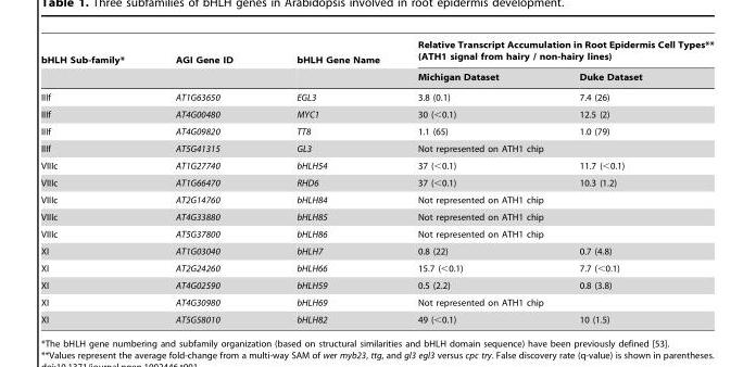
<table><thead><tr><td rowspan="2">bHLH Sub-family*</td><td rowspan="2">AGI Gene ID</td><td rowspan="2">bHLH Gene Name</td><td colspan="2">Relative Transcript Accumulation in Root Epidermis Cell Types** (ATH1 signal from hairy / non-hairy lines)</td></tr><tr><td>Michigan Dataset</td><td>Duke Dataset</td></tr></thead><tbody><tr><td>IIIf</td><td>AT1G63650</td><td>EGL3</td><td>3.8 (0.1)</td><td>7.4 (26)</td></tr><tr><td>IIIf</td><td>AT4G00480</td><td>MYC1</td><td>30 (&lt;0.1)</td><td>12.5 (2)</td></tr><tr><td>IIIf</td><td>AT4G09820</td><td>TT8</td><td>1.1 (65)</td><td>1.0 (79)</td></tr><tr><td>IIIf</td><td>AT5G41315</td><td>GL3</td><td colspan="2">Not represented on ATH1 chip</td></tr><tr><td>VIIIc</td><td>AT1G27740</td><td>bHLH54</td><td>37 (&lt;0.1)</td><td>11.7 (&lt;0.1)</td></tr><tr><td>VIIIc</td><td>AT1G66470</td><td>RHD6</td><td>37 (&lt;0.1)</td><td>10.3 (1.2)</td></tr><tr><td>VIIIc</td><td>AT2G14760</td><td>bHLH84</td><td colspan="2">Not represented on ATH1 chip</td></tr><tr><td>VIIIc</td><td>AT4G33880</td><td>bHLH85</td><td colspan="2">Not represented on ATH1 chip</td></tr><tr><td>VIIIc</td><td>AT5G37800</td><td>bHLH86</td><td colspan="2">Not represented on ATH1 chip</td></tr><tr><td>XI</td><td>AT1G03040</td><td>bHLH7</td><td>0.8 (22)</td><td>0.7 (4.8)</td></tr><tr><td>XI</td><td>AT2G24260</td><td>bHLH66</td><td>15.7 (&lt;0.1)</td><td>7.7 (&lt;0.1)</td></tr><tr><td>XI</td><td>AT4G02590</td><td>bHLH59</td><td>0.5 (2.2)</td><td>0.8 (3.8)</td></tr><tr><td>XI</td><td>AT4G30980</td><td>bHLH69</td><td colspan="2">Not represented on ATH1 chip</td></tr><tr><td>XI</td><td>AT5G58010</td><td>bHLH82</td><td>49 (&lt;0.1)</td><td>10 (1.5)</td></tr></tbody></table>